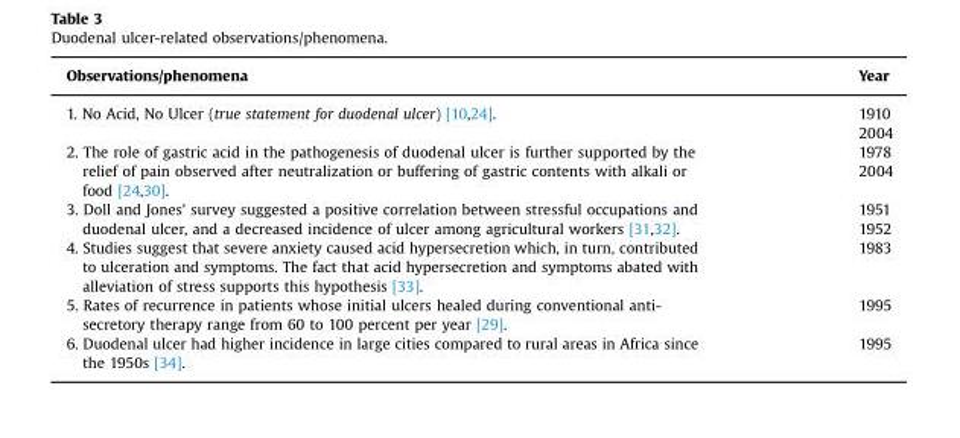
<table><tbody><tr><td>Observations/phenomena</td><td>Year</td></tr><tr><td rowspan="2">1. No Acid, No Ulcer (true statement for duodenal ulcer) [10,24].</td><td>1910</td></tr><tr><td>2004</td></tr><tr><td rowspan="2">2. The role of gastric acid in the pathogenesis of duodenal ulcer is further supported by the relief of pain observed after neutralization or buffering of gastric contents with alkali or food [24,30].</td><td>1978</td></tr><tr><td>2004</td></tr><tr><td rowspan="2">3. Doll and Jones’ survey suggested a positive correlation between stressful occupations and duodenal ulcer, and a decreased incidence of ulcer among agricultural workers [31,32].</td><td>1951</td></tr><tr><td>1952</td></tr><tr><td>4. Studies suggest that severe anxiety caused acid hypersecretion which, in turn, contributed to ulceration and symptoms. The fact that acid hypersecretion and symptoms abated with alleviation of stress supports this hypothesis [33].</td><td>1983</td></tr><tr><td>5. Rates of recurrence in patients whose initial ulcers healed during conventional anti- secretory therapy range from 60 to 100 percent per year [29].</td><td>1995</td></tr><tr><td>6. Duodenal ulcer had higher incidence in large cities compared to rural areas in Africa since the 1950s [34].</td><td>1995</td></tr></tbody></table>